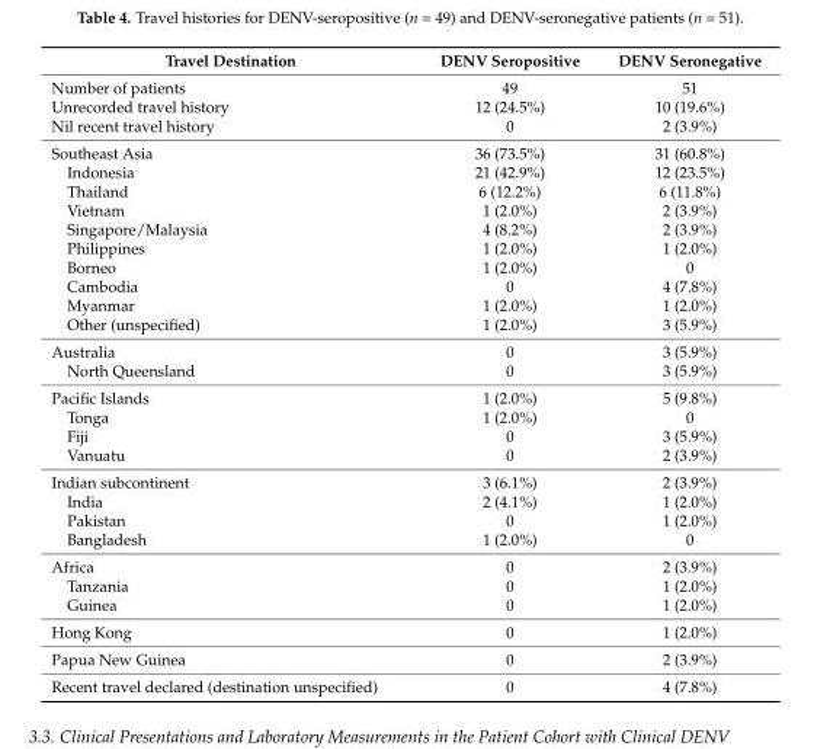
<table><thead><tr><td>Travel Destination</td><td>DENV Seropositive</td><td>DENV Seronegative</td></tr></thead><tbody><tr><td>Number of patients</td><td>49</td><td>51</td></tr><tr><td>Unrecorded travel history</td><td>12 (24.5%)</td><td>10 (19.6%)</td></tr><tr><td>Nil recent travel history</td><td>0</td><td>2 (3.9%)</td></tr><tr><td>Southeast Asia</td><td>36 (73.5%)</td><td>31 (60.8%)</td></tr><tr><td>Indonesia</td><td>21 (42.9%)</td><td>12 (23.5%)</td></tr><tr><td>Thailand</td><td>6 (12.2%)</td><td>6 (11.8%)</td></tr><tr><td>Vietnam</td><td>1 (2.0%)</td><td>2 (3.9%)</td></tr><tr><td>Singapore/Malaysia</td><td>4 (8.2%)</td><td>2 (3.9%)</td></tr><tr><td>Philippines</td><td>1 (2.0%)</td><td>1 (2.0%)</td></tr><tr><td>Borneo</td><td>1 (2.0%)</td><td>0</td></tr><tr><td>Cambodia</td><td>0</td><td>4 (7.8%)</td></tr><tr><td>Myanmar</td><td>1 (2.0%)</td><td>1 (2.0%)</td></tr><tr><td>Other (unspecified)</td><td>1 (2.0%)</td><td>3 (5.9%)</td></tr><tr><td>Australia</td><td>0</td><td>3 (5.9%)</td></tr><tr><td>North Queensland</td><td>0</td><td>3 (5.9%)</td></tr><tr><td>Pacific Islands</td><td>1 (2.0%)</td><td>5 (9.8%)</td></tr><tr><td>Tonga</td><td>1 (2.0%)</td><td>0</td></tr><tr><td>Fiji</td><td>0</td><td>3 (5.9%)</td></tr><tr><td>Vanuatu</td><td>0</td><td>2 (3.9%)</td></tr><tr><td>Indian subcontinent</td><td>3 (6.1%)</td><td>2 (3.9%)</td></tr><tr><td>India</td><td>2 (4.1%)</td><td>1 (2.0%)</td></tr><tr><td>Pakistan</td><td>0</td><td>1 (2.0%)</td></tr><tr><td>Bangladesh</td><td>1 (2.0%)</td><td>0</td></tr><tr><td>Africa</td><td>0</td><td>2 (3.9%)</td></tr><tr><td>Tanzania</td><td>0</td><td>1 (2.0%)</td></tr><tr><td>Guinea</td><td>0</td><td>1 (2.0%)</td></tr><tr><td>Hong Kong</td><td>0</td><td>1 (2.0%)</td></tr><tr><td>Papua New Guinea</td><td>0</td><td>2 (3.9%)</td></tr><tr><td>Recent travel declared (destination unspecified)</td><td>0</td><td>4 (7.8%)</td></tr></tbody></table>